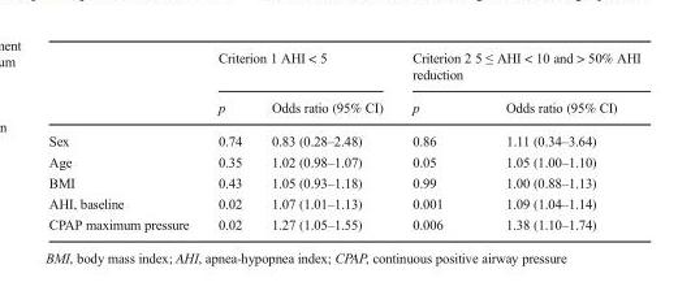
<table><thead><tr><td rowspan="2"></td><td colspan="2">Criterion 1 AHI &lt; 5</td><td colspan="2">Criterion 2 5 ≤ AHI &lt; 10 and &gt; 50% AHI reduction</td></tr><tr><td>p</td><td>Odds ratio (95% CI)</td><td>p</td><td>Odds ratio (95% CI)</td></tr></thead><tbody><tr><td>Sex</td><td>0.74</td><td>0.83 (0.28–2.48)</td><td>0.86</td><td>1.11 (0.34–3.64)</td></tr><tr><td>Age</td><td>0.35</td><td>1.02 (0.98–1.07)</td><td>0.05</td><td>1.05 (1.00–1.10)</td></tr><tr><td>BMI</td><td>0.43</td><td>1.05 (0.93–1.18)</td><td>0.99</td><td>1.00 (0.88–1.13)</td></tr><tr><td>AHI, baseline</td><td>0.02</td><td>1.07 (1.01–1.13)</td><td>0.001</td><td>1.09 (1.04–1.14)</td></tr><tr><td>CPAP maximum pressure</td><td>0.02</td><td>1.27 (1.05–1.55)</td><td>0.006</td><td>1.38 (1.10–1.74)</td></tr></tbody></table>